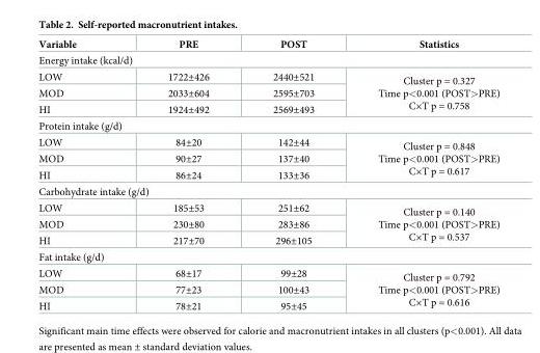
<table><thead><tr><td>Variable</td><td>PRE</td><td>POST</td><td>Statistics</td></tr></thead><tbody><tr><td colspan="4">Energy intake (kcal/d)</td></tr><tr><td>LOW</td><td>1722±426</td><td>2440±521</td><td rowspan="3">Cluster p = 0.327 Time p&lt;0.001 (POST&gt;PRE) C×T p = 0.758</td></tr><tr><td>MOD</td><td>2033±604</td><td>2595±703</td></tr><tr><td>HI</td><td>1924±492</td><td>2569±493</td></tr><tr><td colspan="4">Protein intake (g/d)</td></tr><tr><td>LOW</td><td>84±20</td><td>142±44</td><td rowspan="3">Cluster p = 0.848 Time p&lt;0.001 (POST&gt;PRE) C×T p = 0.617</td></tr><tr><td>MOD</td><td>90±27</td><td>137±40</td></tr><tr><td>HI</td><td>86±24</td><td>133±36</td></tr><tr><td colspan="4">Carbohydrate intake (g/d)</td></tr><tr><td>LOW</td><td>185±53</td><td>251±62</td><td rowspan="3">Cluster p = 0.140 Time p&lt;0.001 (POST&gt;PRE) C×T p = 0.537</td></tr><tr><td>MOD</td><td>230±80</td><td>283±86</td></tr><tr><td>HI</td><td>217±70</td><td>296±105</td></tr><tr><td colspan="4">Fat intake (g/d)</td></tr><tr><td>LOW</td><td>68±17</td><td>99±28</td><td rowspan="3">Cluster p = 0.792 Time p&lt;0.001 (POST&gt;PRE) C×T p = 0.616</td></tr><tr><td>MOD</td><td>77±23</td><td>100±43</td></tr><tr><td>HI</td><td>78±21</td><td>95±45</td></tr></tbody></table>